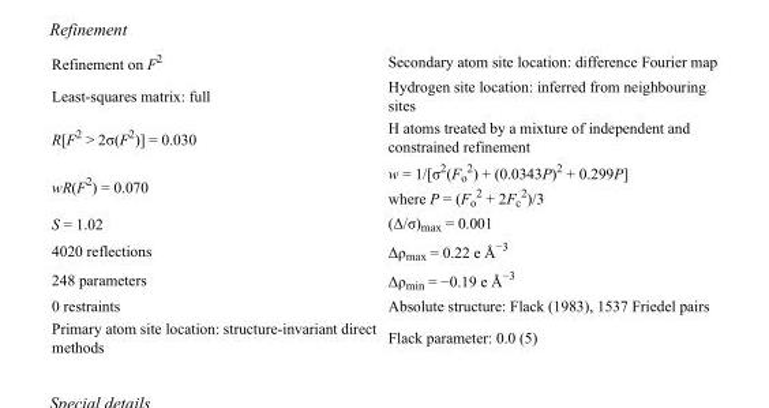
<table><tbody><tr><td>Refinement on F<sup>2</sup></td><td>Secondary atom site location: difference Fourier map</td></tr><tr><td>Least-squares matrix: full</td><td>Hydrogen site location: inferred from neighbouring sites</td></tr><tr><td>R[F<sup>2</sup> &gt; 2σ(F<sup>2</sup>)] = 0.030</td><td>H atoms treated by a mixture of independent and constrained refinement</td></tr><tr><td>wR(F<sup>2</sup>) = 0.070</td><td>w = 1/[σ<sup>2</sup>(F<sub>o</sub> <sup>2</sup>) + (0.0343P)<sup>2</sup> + 0.299P] where P = (F<sub>o</sub> <sup>2</sup> + 2F<sub>c</sub> <sup>2</sup>)/3</td></tr><tr><td>S = 1.02</td><td>(Δ/σ)<sub>max</sub> = 0.001</td></tr><tr><td>4020 reflections</td><td>Δρ<sub>max</sub> = 0.22 e Å<sup>−3</sup></td></tr><tr><td>248 parameters</td><td>Δρ<sub>min</sub> = −0.19 e Å<sup>−3</sup></td></tr><tr><td>0 restraints</td><td>Absolute structure: Flack (1983), 1537 Friedel pairs</td></tr><tr><td>Primary atom site location: structure-invariant direct methods</td><td>Flack parameter: 0.0 (5)</td></tr></tbody></table>